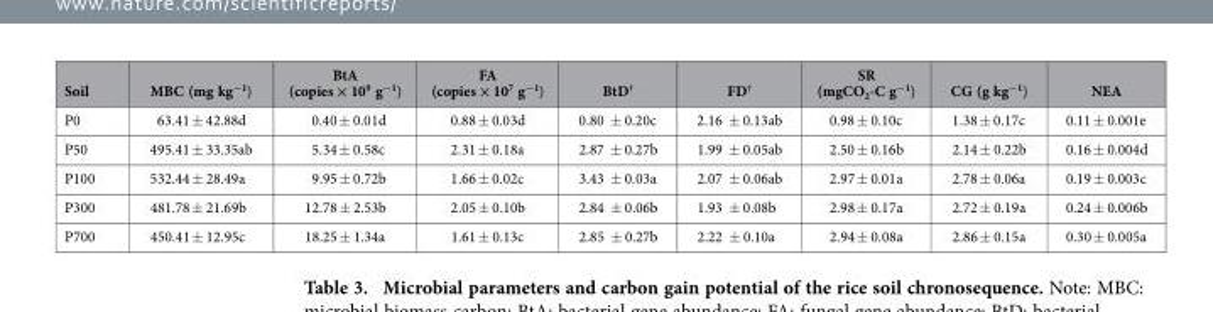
<table><thead><tr><td>Soil</td><td>MBC (mg kg<sup>−1</sup>)</td><td>BtA (copies × 10<sup>9</sup> g<sup>−1</sup>)</td><td>FA (copies × 10<sup>7</sup> g<sup>−1</sup>)</td><td>BtD†</td><td>FD†</td><td>SR (mgCO<sub>2</sub>-C g<sup>−1</sup>)</td><td>CG (g kg<sup>−1</sup>)</td><td>NEA</td></tr></thead><tbody><tr><td>P0</td><td>63.41 ± 42.88d</td><td>0.40 ± 0.01d</td><td>0.88 ± 0.03d</td><td>0.80 ± 0.20c</td><td>2.16 ± 0.13ab</td><td>0.98 ± 0.10c</td><td>1.38 ± 0.17c</td><td>0.11 ± 0.001e</td></tr><tr><td>P50</td><td>495.41 ± 33.35ab</td><td>5.34 ± 0.58c</td><td>2.31 ± 0.18a</td><td>2.87 ± 0.27b</td><td>1.99 ± 0.05ab</td><td>2.50 ± 0.16b</td><td>2.14 ± 0.22b</td><td>0.16 ± 0.004d</td></tr><tr><td>P100</td><td>532.44 ± 28.49a</td><td>9.95 ± 0.72b</td><td>1.66 ± 0.02c</td><td>3.43 ± 0.03a</td><td>2.07 ± 0.06ab</td><td>2.97 ± 0.01a</td><td>2.78 ± 0.06a</td><td>0.19 ± 0.003c</td></tr><tr><td>P300</td><td>481.78 ± 21.69b</td><td>12.78 ± 2.53b</td><td>2.05 ± 0.10b</td><td>2.84 ± 0.06b</td><td>1.93 ± 0.08b</td><td>2.98 ± 0.17a</td><td>2.72 ± 0.19a</td><td>0.24 ± 0.006b</td></tr><tr><td>P700</td><td>450.41 ± 12.95c</td><td>18.25 ± 1.34a</td><td>1.61 ± 0.13c</td><td>2.85 ± 0.27b</td><td>2.22 ± 0.10a</td><td>2.94 ± 0.08a</td><td>2.86 ± 0.15a</td><td>0.30 ± 0.005a</td></tr></tbody></table>